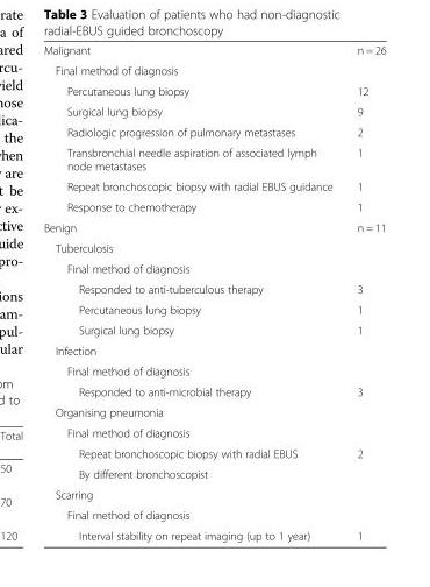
<table><tbody><tr><td>Malignant</td><td>n = 26</td></tr><tr><td colspan="2">Final method of diagnosis</td></tr><tr><td>Percutaneous lung biopsy</td><td>12</td></tr><tr><td>Surgical lung biopsy</td><td>9</td></tr><tr><td>Radiologic progression of pulmonary metastases</td><td>2</td></tr><tr><td>Transbronchial needle aspiration of associated lymph node metastases</td><td>1</td></tr><tr><td>Repeat bronchoscopic biopsy with radial EBUS guidance</td><td>1</td></tr><tr><td>Response to chemotherapy</td><td>1</td></tr><tr><td>Benign</td><td>n = 11</td></tr><tr><td colspan="2">Tuberculosis</td></tr><tr><td colspan="2">Final method of diagnosis</td></tr><tr><td>Responded to anti-tuberculous therapy</td><td>3</td></tr><tr><td>Percutaneous lung biopsy</td><td>1</td></tr><tr><td>Surgical lung biopsy</td><td>1</td></tr><tr><td colspan="2">Infection</td></tr><tr><td colspan="2">Final method of diagnosis</td></tr><tr><td>Responded to anti-microbial therapy</td><td>3</td></tr><tr><td colspan="2">Organising pneumonia</td></tr><tr><td colspan="2">Final method of diagnosis</td></tr><tr><td>Repeat bronchoscopic biopsy with radial EBUS</td><td>2</td></tr><tr><td colspan="2">By different bronchoscopist</td></tr><tr><td colspan="2">Scarring</td></tr><tr><td colspan="2">Final method of diagnosis</td></tr><tr><td>Interval stability on repeat imaging (up to 1 year)</td><td>1</td></tr></tbody></table>